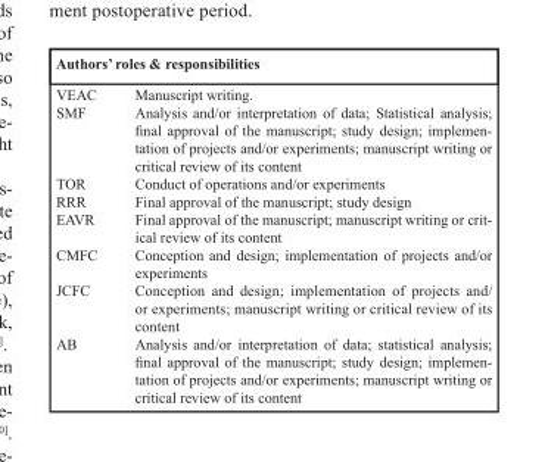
<table><thead><tr><td colspan="2">Authors’ roles &amp; responsibilities</td></tr><tr><td>VEAC</td><td>Manuscript writing.</td></tr></thead><tbody><tr><td>SMF</td><td>Analysis and/or interpretation of data; Statistical analysis; final approval of the manuscript; study design; implemen- tation of projects and/or experiments; manuscript writing or critical review of its content</td></tr><tr><td>TOR</td><td>Conduct of operations and/or experiments</td></tr><tr><td>RRR</td><td>Final approval of the manuscript; study design</td></tr><tr><td>EAVR</td><td>Final approval of the manuscript; manuscript writing or crit- ical review of its content</td></tr><tr><td>CMFC</td><td>Conception and design; implementation of projects and/or experiments</td></tr><tr><td>JCFC</td><td>Conception and design; implementation of projects and/ or experiments; manuscript writing or critical review of its content</td></tr><tr><td>AB</td><td>Analysis and/or interpretation of data; statistical analysis; final approval of the manuscript; study design; implemen- tation of projects and/or experiments; manuscript writing or critical review of its content</td></tr></tbody></table>